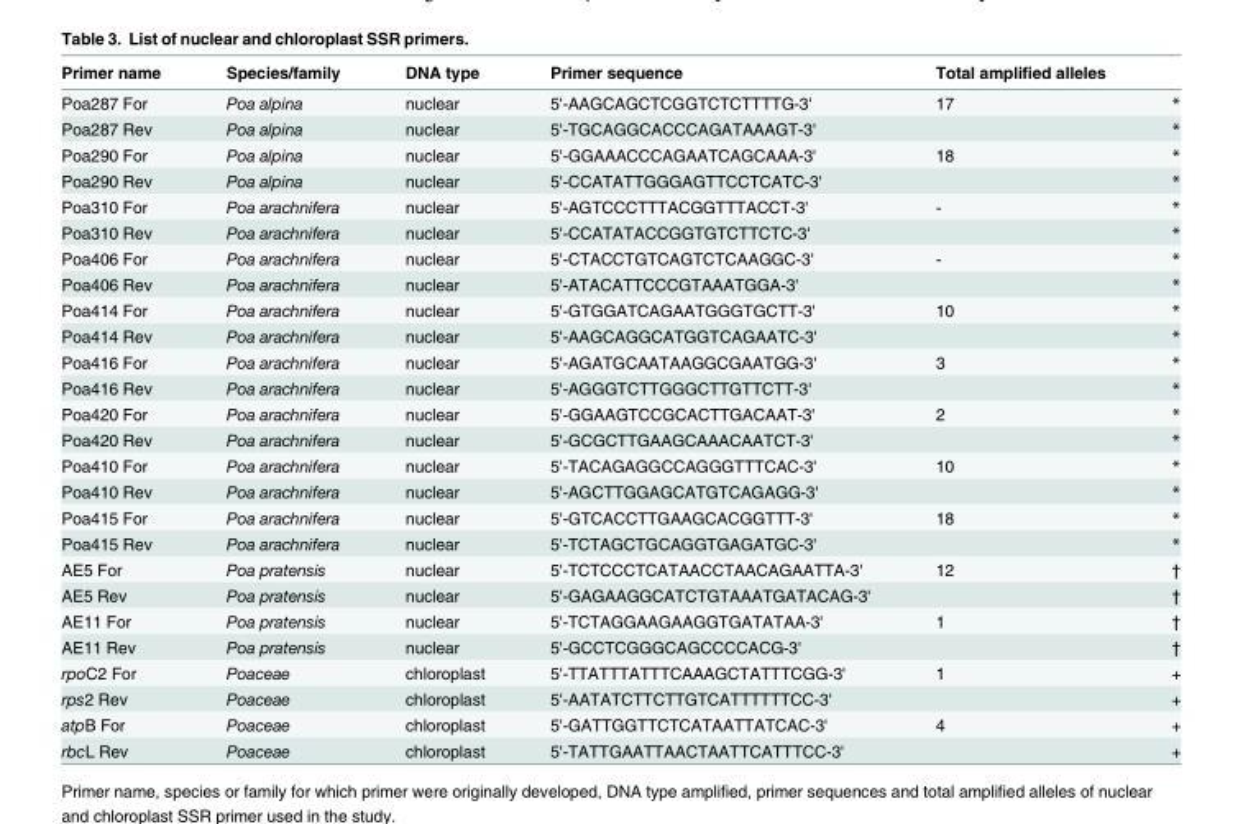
<table><thead><tr><td>Primer name</td><td>Species/family</td><td>DNA type</td><td>Primer sequence</td><td>Total amplified alleles</td><td></td></tr></thead><tbody><tr><td>Poa287 For</td><td>Poa alpina</td><td>nuclear</td><td>5&#x27;-AAGCAGCTCGGTCTCTTTTG-3&#x27;</td><td>17</td><td>*</td></tr><tr><td>Poa287 Rev</td><td>Poa alpina</td><td>nuclear</td><td>5&#x27;-TGCAGGCACCCAGATAAAGT-3&#x27;</td><td></td><td>*</td></tr><tr><td>Poa290 For</td><td>Poa alpina</td><td>nuclear</td><td>5&#x27;-GGAAACCCAGAATCAGCAAA-3&#x27;</td><td>18</td><td>*</td></tr><tr><td>Poa290 Rev</td><td>Poa alpina</td><td>nuclear</td><td>5&#x27;-CCATATTGGGAGTTCCTCATC-3&#x27;</td><td></td><td>*</td></tr><tr><td>Poa310 For</td><td>Poa arachnifera</td><td>nuclear</td><td>5&#x27;-AGTCCCTTTACGGTTTACCT-3&#x27;</td><td>-</td><td>*</td></tr><tr><td>Poa310 Rev</td><td>Poa arachnifera</td><td>nuclear</td><td>5&#x27;-CCATATACCGGTGTCTTCTC-3&#x27;</td><td></td><td>*</td></tr><tr><td>Poa406 For</td><td>Poa arachnifera</td><td>nuclear</td><td>5&#x27;-CTACCTGTCAGTCTCAAGGC-3&#x27;</td><td>-</td><td>*</td></tr><tr><td>Poa406 Rev</td><td>Poa arachnifera</td><td>nuclear</td><td>5&#x27;-ATACATTCCCGTAAATGGA-3&#x27;</td><td></td><td>*</td></tr><tr><td>Poa414 For</td><td>Poa arachnifera</td><td>nuclear</td><td>5&#x27;-GTGGATCAGAATGGGTGCTT-3&#x27;</td><td>10</td><td>*</td></tr><tr><td>Poa414 Rev</td><td>Poa arachnifera</td><td>nuclear</td><td>5&#x27;-AAGCAGGCATGGTCAGAATC-3&#x27;</td><td></td><td>*</td></tr><tr><td>Poa416 For</td><td>Poa arachnifera</td><td>nuclear</td><td>5&#x27;-AGATGCAATAAGGCGAATGG-3&#x27;</td><td>3</td><td>*</td></tr><tr><td>Poa416 Rev</td><td>Poa arachnifera</td><td>nuclear</td><td>5&#x27;-AGGGTCTTGGGCTTGTTCTT-3&#x27;</td><td></td><td>*</td></tr><tr><td>Poa420 For</td><td>Poa arachnifera</td><td>nuclear</td><td>5&#x27;-GGAAGTCCGCACTTGACAAT-3&#x27;</td><td>2</td><td>*</td></tr><tr><td>Poa420 Rev</td><td>Poa arachnifera</td><td>nuclear</td><td>5&#x27;-GCGCTTGAAGCAAACAATCT-3&#x27;</td><td></td><td>*</td></tr><tr><td>Poa410 For</td><td>Poa arachnifera</td><td>nuclear</td><td>5&#x27;-TACAGAGGCCAGGGTTTCAC-3&#x27;</td><td>10</td><td>*</td></tr><tr><td>Poa410 Rev</td><td>Poa arachnifera</td><td>nuclear</td><td>5&#x27;-AGCTTGGAGCATGTCAGAGG-3&#x27;</td><td></td><td>*</td></tr><tr><td>Poa415 For</td><td>Poa arachnifera</td><td>nuclear</td><td>5&#x27;-GTCACCTTGAAGCACGGTTT-3&#x27;</td><td>18</td><td>*</td></tr><tr><td>Poa415 Rev</td><td>Poa arachnifera</td><td>nuclear</td><td>5&#x27;-TCTAGCTGCAGGTGAGATGC-3&#x27;</td><td></td><td>*</td></tr><tr><td>AE5 For</td><td>Poa pratensis</td><td>nuclear</td><td>5&#x27;-TCTCCCTCATAACCTAACAGAATTA-3&#x27;</td><td>12</td><td>†</td></tr><tr><td>AE5 Rev</td><td>Poa pratensis</td><td>nuclear</td><td>5&#x27;-GAGAAGGCATCTGTAAATGATACAG-3&#x27;</td><td></td><td>†</td></tr><tr><td>AE11 For</td><td>Poa pratensis</td><td>nuclear</td><td>5&#x27;-TCTAGGAAGAAGGTGATATAA-3&#x27;</td><td>1</td><td>†</td></tr><tr><td>AE11 Rev</td><td>Poa pratensis</td><td>nuclear</td><td>5&#x27;-GCCTCGGGCAGCCCCACG-3&#x27;</td><td></td><td>†</td></tr><tr><td>rpoC2 For</td><td>Poaceae</td><td>chloroplast</td><td>5&#x27;-TTATTTATTTCAAAGCTATTTCGG-3&#x27;</td><td>1</td><td>+</td></tr><tr><td>rps2 Rev</td><td>Poaceae</td><td>chloroplast</td><td>5&#x27;-AATATCTTCTTGTCATTTTTTCC-3&#x27;</td><td></td><td>+</td></tr><tr><td>atpB For</td><td>Poaceae</td><td>chloroplast</td><td>5&#x27;-GATTGGTTCTCATAATTATCAC-3&#x27;</td><td>4</td><td>+</td></tr><tr><td>rbcL Rev</td><td>Poaceae</td><td>chloroplast</td><td>5&#x27;-TATTGAATTAACTAATTCATTTCC-3&#x27;</td><td></td><td>+</td></tr></tbody></table>